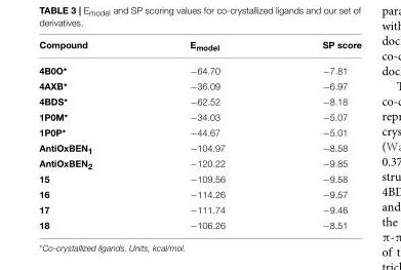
<table><thead><tr><td>Compound</td><td>E<sub>model</sub></td><td>SP score</td></tr></thead><tbody><tr><td>4B0O*</td><td>−64.70</td><td>−7.81</td></tr><tr><td>4AXB*</td><td>−36.09</td><td>−6.97</td></tr><tr><td>4BDS*</td><td>−62.52</td><td>−8.18</td></tr><tr><td>1P0M*</td><td>−34.03</td><td>−5.07</td></tr><tr><td>1P0P*</td><td>−44.67</td><td>−5.01</td></tr><tr><td>AntiOxBEN<sub>1</sub></td><td>−104.97</td><td>−8.58</td></tr><tr><td>AntiOxBEN<sub>2</sub></td><td>−120.22</td><td>−9.85</td></tr><tr><td>15</td><td>−109.56</td><td>−9.58</td></tr><tr><td>16</td><td>−114.26</td><td>−9.57</td></tr><tr><td>17</td><td>−111.74</td><td>−9.46</td></tr><tr><td>18</td><td>−106.26</td><td>−8.51</td></tr></tbody></table>